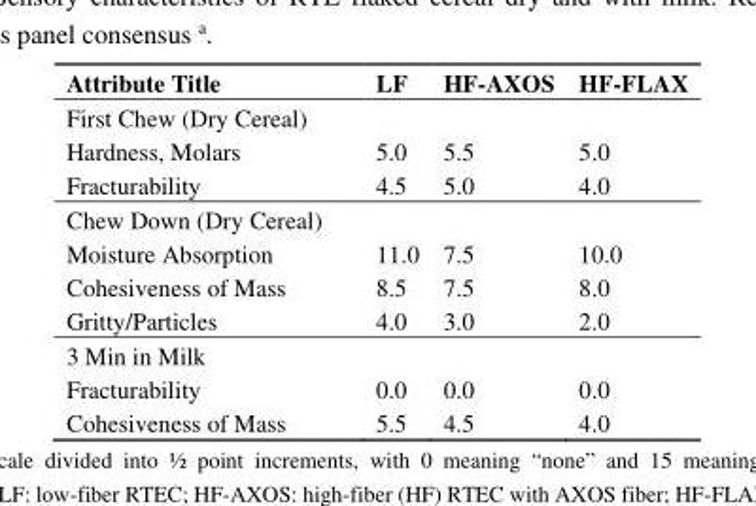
<table><thead><tr><td>Attribute Title</td><td>LF</td><td>HF-AXOS</td><td>HF-FLAX</td></tr></thead><tbody><tr><td colspan="4">First Chew (Dry Cereal)</td></tr><tr><td>Hardness, Molars</td><td>5.0</td><td>5.5</td><td>5.0</td></tr><tr><td>Fracturability</td><td>4.5</td><td>5.0</td><td>4.0</td></tr><tr><td colspan="4">Chew Down (Dry Cereal)</td></tr><tr><td>Moisture Absorption</td><td>11.0</td><td>7.5</td><td>10.0</td></tr><tr><td>Cohesiveness of Mass</td><td>8.5</td><td>7.5</td><td>8.0</td></tr><tr><td>Gritty/Particles</td><td>4.0</td><td>3.0</td><td>2.0</td></tr><tr><td colspan="4">3 Min in Milk</td></tr><tr><td>Fracturability</td><td>0.0</td><td>0.0</td><td>0.0</td></tr><tr><td>Cohesiveness of Mass</td><td>5.5</td><td>4.5</td><td>4.0</td></tr></tbody></table>